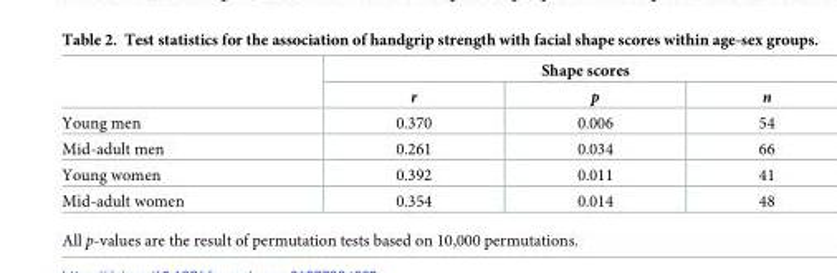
<table><thead><tr><td rowspan="2"></td><td colspan="3">Shape scores</td></tr><tr><td>r</td><td>p</td><td>n</td></tr></thead><tbody><tr><td>Young men</td><td>0.370</td><td>0.006</td><td>54</td></tr><tr><td>Mid-adult men</td><td>0.261</td><td>0.034</td><td>66</td></tr><tr><td>Young women</td><td>0.392</td><td>0.011</td><td>41</td></tr><tr><td>Mid-adult women</td><td>0.354</td><td>0.014</td><td>48</td></tr></tbody></table>